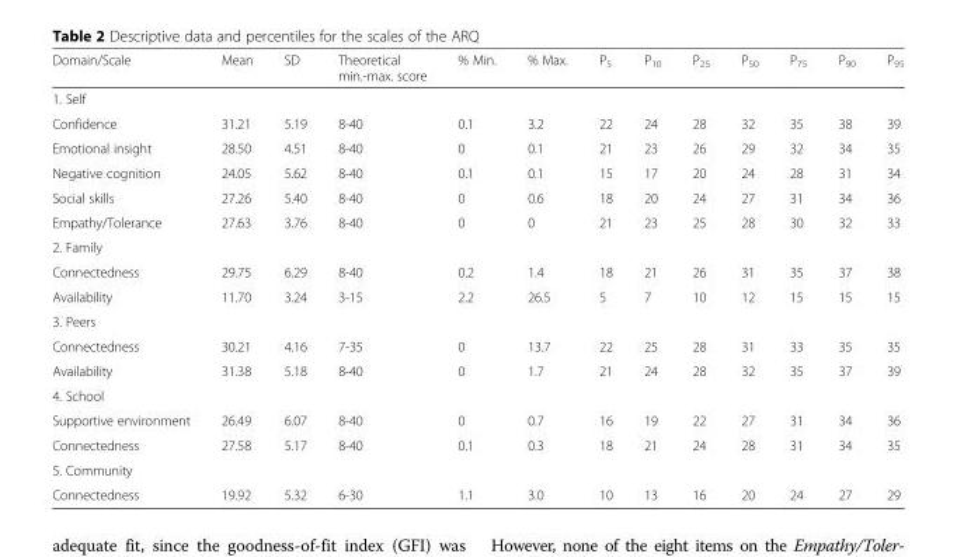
<table><thead><tr><td>Domain/Scale</td><td>Mean</td><td>SD</td><td>Theoretical min.-max. score</td><td>% Min.</td><td>% Max.</td><td>P<sub>5</sub></td><td>P<sub>10</sub></td><td>P<sub>25</sub></td><td>P<sub>50</sub></td><td>P<sub>75</sub></td><td>P<sub>90</sub></td><td>P<sub>95</sub></td></tr></thead><tbody><tr><td colspan="13">1. Self</td></tr><tr><td>Confidence</td><td>31.21</td><td>5.19</td><td>8-40</td><td>0.1</td><td>3.2</td><td>22</td><td>24</td><td>28</td><td>32</td><td>35</td><td>38</td><td>39</td></tr><tr><td>Emotional insight</td><td>28.50</td><td>4.51</td><td>8-40</td><td>0</td><td>0.1</td><td>21</td><td>23</td><td>26</td><td>29</td><td>32</td><td>34</td><td>35</td></tr><tr><td>Negative cognition</td><td>24.05</td><td>5.62</td><td>8-40</td><td>0.1</td><td>0.1</td><td>15</td><td>17</td><td>20</td><td>24</td><td>28</td><td>31</td><td>34</td></tr><tr><td>Social skills</td><td>27.26</td><td>5.40</td><td>8-40</td><td>0</td><td>0.6</td><td>18</td><td>20</td><td>24</td><td>27</td><td>31</td><td>34</td><td>36</td></tr><tr><td>Empathy/Tolerance</td><td>27.63</td><td>3.76</td><td>8-40</td><td>0</td><td>0</td><td>21</td><td>23</td><td>25</td><td>28</td><td>30</td><td>32</td><td>33</td></tr><tr><td colspan="13">2. Family</td></tr><tr><td>Connectedness</td><td>29.75</td><td>6.29</td><td>8-40</td><td>0.2</td><td>1.4</td><td>18</td><td>21</td><td>26</td><td>31</td><td>35</td><td>37</td><td>38</td></tr><tr><td>Availability</td><td>11.70</td><td>3.24</td><td>3-15</td><td>2.2</td><td>26.5</td><td>5</td><td>7</td><td>10</td><td>12</td><td>15</td><td>15</td><td>15</td></tr><tr><td colspan="13">3. Peers</td></tr><tr><td>Connectedness</td><td>30.21</td><td>4.16</td><td>7-35</td><td>0</td><td>13.7</td><td>22</td><td>25</td><td>28</td><td>31</td><td>33</td><td>35</td><td>35</td></tr><tr><td>Availability</td><td>31.38</td><td>5.18</td><td>8-40</td><td>0</td><td>1.7</td><td>21</td><td>24</td><td>28</td><td>32</td><td>35</td><td>37</td><td>39</td></tr><tr><td colspan="13">4. School</td></tr><tr><td>Supportive environment</td><td>26.49</td><td>6.07</td><td>8-40</td><td>0</td><td>0.7</td><td>16</td><td>19</td><td>22</td><td>27</td><td>31</td><td>34</td><td>36</td></tr><tr><td>Connectedness</td><td>27.58</td><td>5.17</td><td>8-40</td><td>0.1</td><td>0.3</td><td>18</td><td>21</td><td>24</td><td>28</td><td>31</td><td>34</td><td>35</td></tr><tr><td colspan="13">5. Community</td></tr><tr><td>Connectedness</td><td>19.92</td><td>5.32</td><td>6-30</td><td>1.1</td><td>3.0</td><td>10</td><td>13</td><td>16</td><td>20</td><td>24</td><td>27</td><td>29</td></tr></tbody></table>